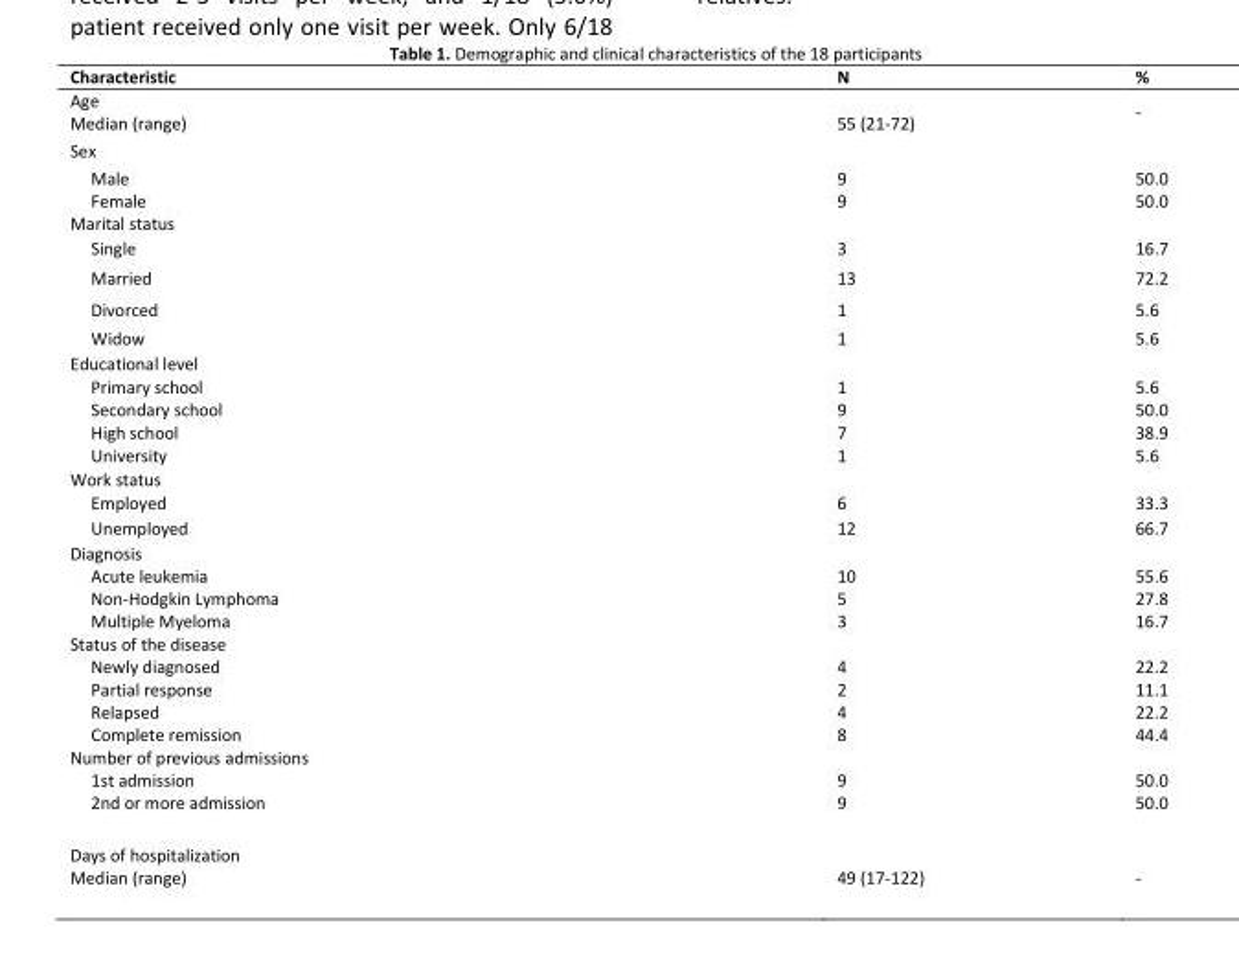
<table><thead><tr><td>Characteristic</td><td>N</td><td>%</td></tr></thead><tbody><tr><td>Age Median (range)</td><td>55 (21-72)</td><td>-</td></tr><tr><td colspan="3">Sex</td></tr><tr><td>Male</td><td>9</td><td>50.0</td></tr><tr><td>Female</td><td>9</td><td>50.0</td></tr><tr><td colspan="3">Marital status</td></tr><tr><td>Single</td><td>3</td><td>16.7</td></tr><tr><td>Married</td><td>13</td><td>72.2</td></tr><tr><td>Divorced</td><td>1</td><td>5.6</td></tr><tr><td>Widow</td><td>1</td><td>5.6</td></tr><tr><td colspan="3">Educational level</td></tr><tr><td>Primary school</td><td>1</td><td>5.6</td></tr><tr><td>Secondary school</td><td>9</td><td>50.0</td></tr><tr><td>High school</td><td>7</td><td>38.9</td></tr><tr><td>University</td><td>1</td><td>5.6</td></tr><tr><td colspan="3">Work status</td></tr><tr><td>Employed</td><td>6</td><td>33.3</td></tr><tr><td>Unemployed</td><td>12</td><td>66.7</td></tr><tr><td colspan="3">Diagnosis</td></tr><tr><td>Acute leukemia</td><td>10</td><td>55.6</td></tr><tr><td>Non-Hodgkin Lymphoma</td><td>5</td><td>27.8</td></tr><tr><td>Multiple Myeloma</td><td>3</td><td>16.7</td></tr><tr><td colspan="3">Status of the disease</td></tr><tr><td>Newly diagnosed</td><td>4</td><td>22.2</td></tr><tr><td>Partial response</td><td>2</td><td>11.1</td></tr><tr><td>Relapsed</td><td>4</td><td>22.2</td></tr><tr><td>Complete remission</td><td>8</td><td>44.4</td></tr><tr><td colspan="3">Number of previous admissions</td></tr><tr><td>1st admission</td><td>9</td><td>50.0</td></tr><tr><td>2nd or more admission</td><td>9</td><td>50.0</td></tr><tr><td>Days of hospitalization Median (range)</td><td>49 (17-122)</td><td>-</td></tr></tbody></table>